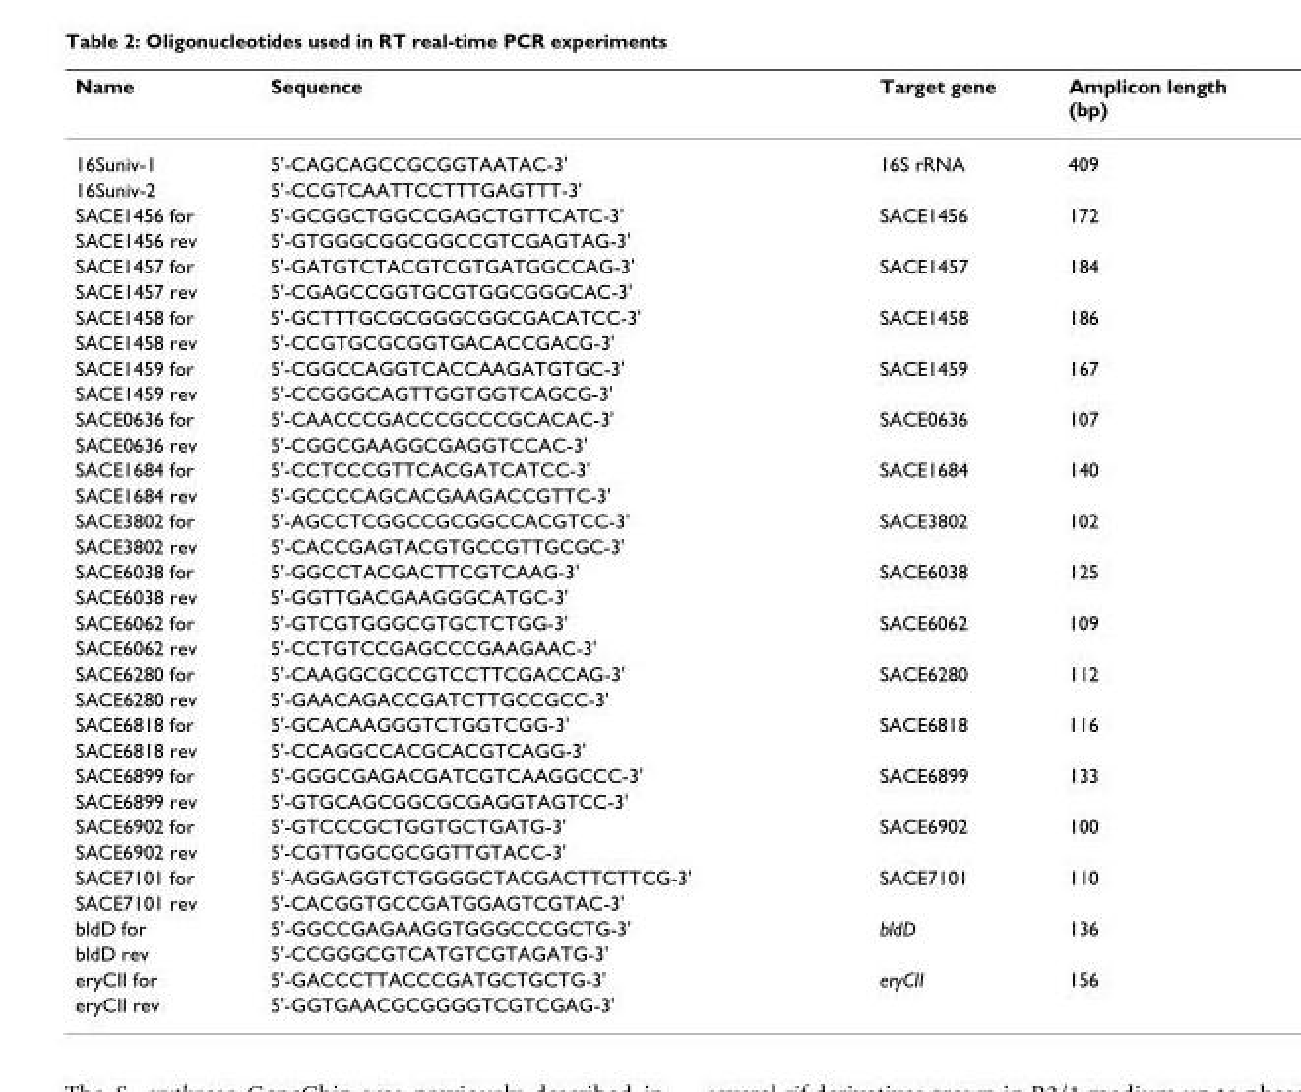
<table><thead><tr><td>Name</td><td>Sequence</td><td>Target gene</td><td>Amplicon length (bp)</td></tr></thead><tbody><tr><td>16Suniv-1</td><td>5&#x27;-CAGCAGCCGCGGTAATAC-3&#x27;</td><td>16S rRNA</td><td>409</td></tr><tr><td>16Suniv-2</td><td>5&#x27;-CCGTCAATTCCTTTGAGTTT-3&#x27;</td><td></td><td></td></tr><tr><td>SACE1456 for</td><td>5&#x27;-GCGGCTGGCCGAGCTGTTCATC-3&#x27;</td><td>SACE1456</td><td>172</td></tr><tr><td>SACE1456 rev</td><td>5&#x27;-GTGGGCGGCGGCCGTCGAGTAG-3&#x27;</td><td></td><td></td></tr><tr><td>SACE1457 for</td><td>5&#x27;-GATGTCTACGTCGTGATGGCCAG-3&#x27;</td><td>SACE1457</td><td>184</td></tr><tr><td>SACE1457 rev</td><td>5&#x27;-CGAGCCGGTGCGTGGCGGGCAC-3&#x27;</td><td></td><td></td></tr><tr><td>SACE1458 for</td><td>5&#x27;-GCTTTGCGCGGGCGGCGACATCC-3&#x27;</td><td>SACE1458</td><td>186</td></tr><tr><td>SACE1458 rev</td><td>5&#x27;-CCGTGCGCGGTGACACCGACG-3&#x27;</td><td></td><td></td></tr><tr><td>SACE1459 for</td><td>5&#x27;-CGGCCAGGTCACCAAGATGTGC-3&#x27;</td><td>SACE1459</td><td>167</td></tr><tr><td>SACE1459 rev</td><td>5&#x27;-CCGGGCAGTTGGTGGTCAGCG-3&#x27;</td><td></td><td></td></tr><tr><td>SACE0636 for</td><td>5&#x27;-CAACCCGACCCGCCCGCACAC-3&#x27;</td><td>SACE0636</td><td>107</td></tr><tr><td>SACE0636 rev</td><td>5&#x27;-CGGCGAAGGCGAGGTCCAC-3&#x27;</td><td></td><td></td></tr><tr><td>SACE1684 for</td><td>5&#x27;-CCTCCCGTTCACGATCATCC-3&#x27;</td><td>SACE1684</td><td>140</td></tr><tr><td>SACE1684 rev</td><td>5&#x27;-GCCCCAGCACGAAGACCGTTC-3&#x27;</td><td></td><td></td></tr><tr><td>SACE3802 for</td><td>5&#x27;-AGCCTCGGCCGCGGCCACGTCC-3&#x27;</td><td>SACE3802</td><td>102</td></tr><tr><td>SACE3802 rev</td><td>5&#x27;-CACCGAGTACGTGCCGTTGCGC-3&#x27;</td><td></td><td></td></tr><tr><td>SACE6038 for</td><td>5&#x27;-GGCCTACGACTTCGTCAAG-3&#x27;</td><td>SACE6038</td><td>125</td></tr><tr><td>SACE6038 rev</td><td>5&#x27;-GGTTGACGAAGGGCATGC-3&#x27;</td><td></td><td></td></tr><tr><td>SACE6062 for</td><td>5&#x27;-GTCGTGGGCGTGCTCTGG-3&#x27;</td><td>SACE6062</td><td>109</td></tr><tr><td>SACE6062 rev</td><td>5&#x27;-CCTGTCCGAGCCCGAAGAAC-3&#x27;</td><td></td><td></td></tr><tr><td>SACE6280 for</td><td>5&#x27;-CAAGGCGCCGTCCTTCGACCAG-3&#x27;</td><td>SACE6280</td><td>112</td></tr><tr><td>SACE6280 rev</td><td>5&#x27;-GAACAGACCGATCTTGCCGCC-3&#x27;</td><td></td><td></td></tr><tr><td>SACE6818 for</td><td>5&#x27;-GCACAAGGGTCTGGTCGG-3&#x27;</td><td>SACE6818</td><td>116</td></tr><tr><td>SACE6818 rev</td><td>5&#x27;-CCAGGCCACGCACGTCAGG-3&#x27;</td><td></td><td></td></tr><tr><td>SACE6899 for</td><td>5&#x27;-GGGCGAGACGATCGTCAAGGCCC-3&#x27;</td><td>SACE6899</td><td>133</td></tr><tr><td>SACE6899 rev</td><td>5&#x27;-GTGCAGCGGCGCGAGGTAGTCC-3&#x27;</td><td></td><td></td></tr><tr><td>SACE6902 for</td><td>5&#x27;-GTCCCGCTGGTGCTGATG-3&#x27;</td><td>SACE6902</td><td>100</td></tr><tr><td>SACE6902 rev</td><td>5&#x27;-CGTTGGCGCGGTTGTACC-3&#x27;</td><td></td><td></td></tr><tr><td>SACE7101 for</td><td>5&#x27;-AGGAGGTCTGGGGCTACGACTTCTTCG-3&#x27;</td><td>SACE7101</td><td>110</td></tr><tr><td>SACE7101 rev</td><td>5&#x27;-CACGGTGCCGATGGAGTCGTAC-3&#x27;</td><td></td><td></td></tr><tr><td>bldD for</td><td>5&#x27;-GGCCGAGAAGGTGGGCCCGCTG-3&#x27;</td><td>bldD</td><td>136</td></tr><tr><td>bldD rev</td><td>5&#x27;-CCGGGCGTCATGTCGTAGATG-3&#x27;</td><td></td><td></td></tr><tr><td>eryCII for</td><td>5&#x27;-GACCCTTACCCGATGCTGCTG-3&#x27;</td><td>eryCII</td><td>156</td></tr><tr><td>eryCII rev</td><td>5&#x27;-GGTGAACGCGGGGTCGTCGAG-3&#x27;</td><td></td><td></td></tr></tbody></table>